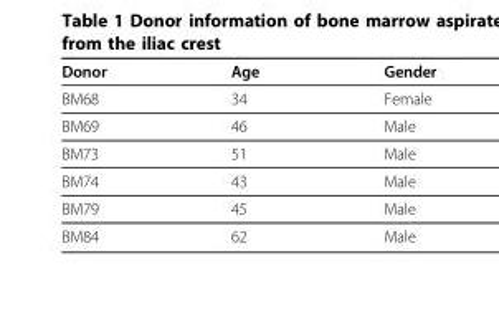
<table><thead><tr><td>Donor</td><td>Age</td><td>Gender</td></tr></thead><tbody><tr><td>BM68</td><td>34</td><td>Female</td></tr><tr><td>BM69</td><td>46</td><td>Male</td></tr><tr><td>BM73</td><td>51</td><td>Male</td></tr><tr><td>BM74</td><td>43</td><td>Male</td></tr><tr><td>BM79</td><td>45</td><td>Male</td></tr><tr><td>BM84</td><td>62</td><td>Male</td></tr></tbody></table>